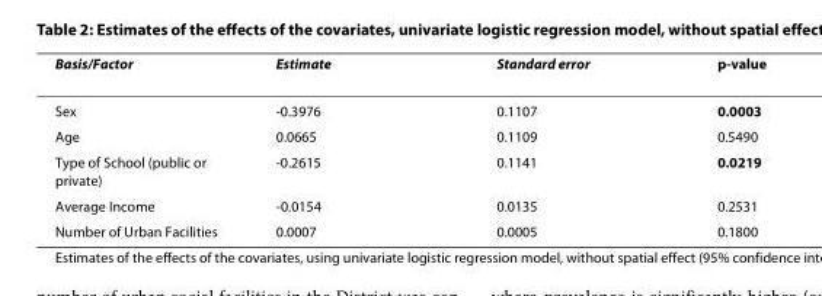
<table><thead><tr><td>Basis/Factor</td><td>Estimate</td><td>Standard error</td><td>p-value</td></tr></thead><tbody><tr><td>Sex</td><td>-0.3976</td><td>0.1107</td><td>0.0003</td></tr><tr><td>Age</td><td>0.0665</td><td>0.1109</td><td>0.5490</td></tr><tr><td>Type of School (public or private)</td><td>-0.2615</td><td>0.1141</td><td>0.0219</td></tr><tr><td>Average Income</td><td>-0.0154</td><td>0.0135</td><td>0.2531</td></tr><tr><td>Number of Urban Facilities</td><td>0.0007</td><td>0.0005</td><td>0.1800</td></tr></tbody></table>